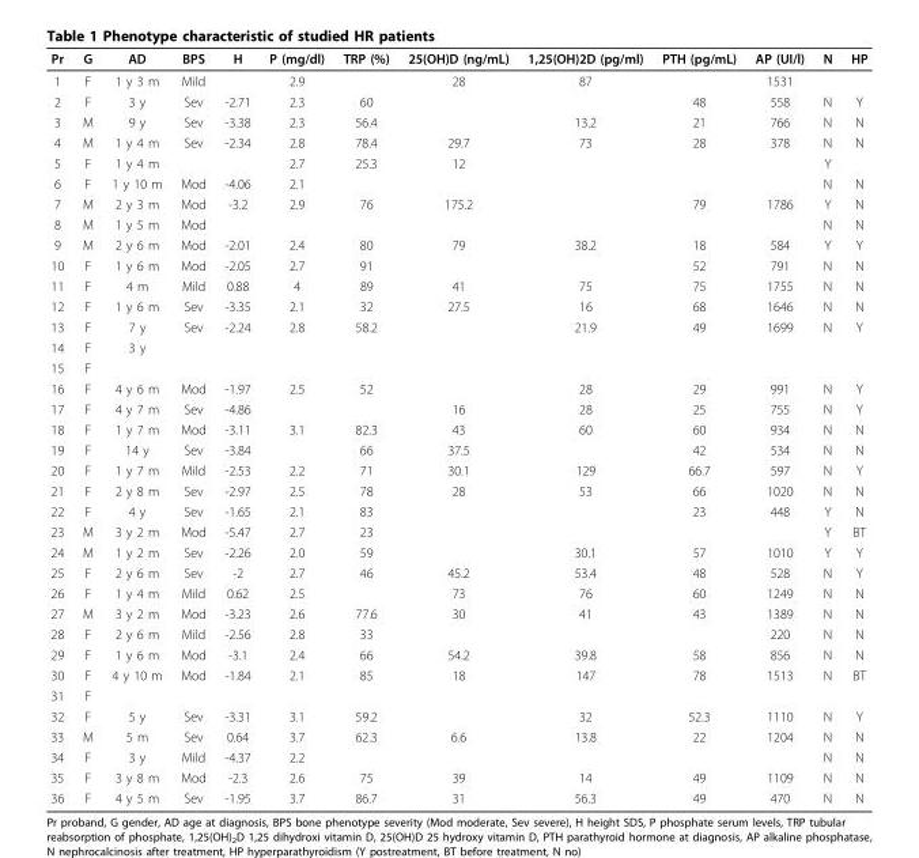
<table><thead><tr><td>Pr</td><td>G</td><td>AD</td><td>BPS</td><td>H</td><td>P (mg/dl)</td><td>TRP (%)</td><td>25(OH)D (ng/mL)</td><td>1,25(OH)2D (pg/ml)</td><td>PTH (pg/mL)</td><td>AP (UI/l)</td><td>N</td><td>HP</td></tr></thead><tbody><tr><td>1</td><td>F</td><td>1 y 3 m</td><td>Mild</td><td></td><td>2.9</td><td></td><td>28</td><td>87</td><td></td><td>1531</td><td></td><td></td></tr><tr><td>2</td><td>F</td><td>3 y</td><td>Sev</td><td>-2.71</td><td>2.3</td><td>60</td><td></td><td></td><td>48</td><td>558</td><td>N</td><td>Y</td></tr><tr><td>3</td><td>M</td><td>9 y</td><td>Sev</td><td>-3.38</td><td>2.3</td><td>56.4</td><td></td><td>13.2</td><td>21</td><td>766</td><td>N</td><td>N</td></tr><tr><td>4</td><td>M</td><td>1 y 4 m</td><td>Sev</td><td>-2.34</td><td>2.8</td><td>78.4</td><td>29.7</td><td>73</td><td>28</td><td>378</td><td>N</td><td>N</td></tr><tr><td>5</td><td>F</td><td>1 y 4 m</td><td></td><td></td><td>2.7</td><td>25.3</td><td>12</td><td></td><td></td><td></td><td>Y</td><td></td></tr><tr><td>6</td><td>F</td><td>1 y 10 m</td><td>Mod</td><td>-4.06</td><td>2.1</td><td></td><td></td><td></td><td></td><td></td><td>N</td><td>N</td></tr><tr><td>7</td><td>M</td><td>2 y 3 m</td><td>Mod</td><td>-3.2</td><td>2.9</td><td>76</td><td>175.2</td><td></td><td>79</td><td>1786</td><td>Y</td><td>N</td></tr><tr><td>8</td><td>M</td><td>1 y 5 m</td><td>Mod</td><td></td><td></td><td></td><td></td><td></td><td></td><td></td><td>N</td><td>N</td></tr><tr><td>9</td><td>M</td><td>2 y 6 m</td><td>Mod</td><td>-2.01</td><td>2.4</td><td>80</td><td>79</td><td>38.2</td><td>18</td><td>584</td><td>Y</td><td>Y</td></tr><tr><td>10</td><td>F</td><td>1 y 6 m</td><td>Mod</td><td>-2.05</td><td>2.7</td><td>91</td><td></td><td></td><td>52</td><td>791</td><td>N</td><td>N</td></tr><tr><td>11</td><td>F</td><td>4 m</td><td>Mild</td><td>0.88</td><td>4</td><td>89</td><td>41</td><td>75</td><td>75</td><td>1755</td><td>N</td><td>N</td></tr><tr><td>12</td><td>F</td><td>1 y 6 m</td><td>Sev</td><td>-3.35</td><td>2.1</td><td>32</td><td>27.5</td><td>16</td><td>68</td><td>1646</td><td>N</td><td>N</td></tr><tr><td>13</td><td>F</td><td>7 y</td><td>Sev</td><td>-2.24</td><td>2.8</td><td>58.2</td><td></td><td>21.9</td><td>49</td><td>1699</td><td>N</td><td>Y</td></tr><tr><td>14</td><td>F</td><td>3 y</td><td></td><td></td><td></td><td></td><td></td><td></td><td></td><td></td><td></td><td></td></tr><tr><td>15</td><td>F</td><td></td><td></td><td></td><td></td><td></td><td></td><td></td><td></td><td></td><td></td><td></td></tr><tr><td>16</td><td>F</td><td>4 y 6 m</td><td>Mod</td><td>-1.97</td><td>2.5</td><td>52</td><td></td><td>28</td><td>29</td><td>991</td><td>N</td><td>Y</td></tr><tr><td>17</td><td>F</td><td>4 y 7 m</td><td>Sev</td><td>-4.86</td><td></td><td></td><td>16</td><td>28</td><td>25</td><td>755</td><td>N</td><td>Y</td></tr><tr><td>18</td><td>F</td><td>1 y 7 m</td><td>Mod</td><td>-3.11</td><td>3.1</td><td>82.3</td><td>43</td><td>60</td><td>60</td><td>934</td><td>N</td><td>N</td></tr><tr><td>19</td><td>F</td><td>14 y</td><td>Sev</td><td>-3.84</td><td></td><td>66</td><td>37.5</td><td></td><td>42</td><td>534</td><td>N</td><td>N</td></tr><tr><td>20</td><td>F</td><td>1 y 7 m</td><td>Mild</td><td>-2.53</td><td>2.2</td><td>71</td><td>30.1</td><td>129</td><td>66.7</td><td>597</td><td>N</td><td>Y</td></tr><tr><td>21</td><td>F</td><td>2 y 8 m</td><td>Sev</td><td>-2.97</td><td>2.5</td><td>78</td><td>28</td><td>53</td><td>66</td><td>1020</td><td>N</td><td>N</td></tr><tr><td>22</td><td>F</td><td>4 y</td><td>Sev</td><td>-1.65</td><td>2.1</td><td>83</td><td></td><td></td><td>23</td><td>448</td><td>Y</td><td>N</td></tr><tr><td>23</td><td>M</td><td>3 y 2 m</td><td>Mod</td><td>-5.47</td><td>2.7</td><td>23</td><td></td><td></td><td></td><td></td><td>Y</td><td>BT</td></tr><tr><td>24</td><td>M</td><td>1 y 2 m</td><td>Sev</td><td>-2.26</td><td>2.0</td><td>59</td><td></td><td>30.1</td><td>57</td><td>1010</td><td>Y</td><td>Y</td></tr><tr><td>25</td><td>F</td><td>2 y 6 m</td><td>Sev</td><td>-2</td><td>2.7</td><td>46</td><td>45.2</td><td>53.4</td><td>48</td><td>528</td><td>N</td><td>Y</td></tr><tr><td>26</td><td>F</td><td>1 y 4 m</td><td>Mild</td><td>0.62</td><td>2.5</td><td></td><td>73</td><td>76</td><td>60</td><td>1249</td><td>N</td><td>N</td></tr><tr><td>27</td><td>M</td><td>3 y 2 m</td><td>Mod</td><td>-3.23</td><td>2.6</td><td>77.6</td><td>30</td><td>41</td><td>43</td><td>1389</td><td>N</td><td>N</td></tr><tr><td>28</td><td>F</td><td>2 y 6 m</td><td>Mild</td><td>-2.56</td><td>2.8</td><td>33</td><td></td><td></td><td></td><td>220</td><td>N</td><td>N</td></tr><tr><td>29</td><td>F</td><td>1 y 6 m</td><td>Mod</td><td>-3.1</td><td>2.4</td><td>66</td><td>54.2</td><td>39.8</td><td>58</td><td>856</td><td>N</td><td>N</td></tr><tr><td>30</td><td>F</td><td>4 y 10 m</td><td>Mod</td><td>-1.84</td><td>2.1</td><td>85</td><td>18</td><td>147</td><td>78</td><td>1513</td><td>N</td><td>BT</td></tr><tr><td>31</td><td>F</td><td></td><td></td><td></td><td></td><td></td><td></td><td></td><td></td><td></td><td></td><td></td></tr><tr><td>32</td><td>F</td><td>5 y</td><td>Sev</td><td>-3.31</td><td>3.1</td><td>59.2</td><td></td><td>32</td><td>52.3</td><td>1110</td><td>N</td><td>Y</td></tr><tr><td>33</td><td>M</td><td>5 m</td><td>Sev</td><td>0.64</td><td>3.7</td><td>62.3</td><td>6.6</td><td>13.8</td><td>22</td><td>1204</td><td>N</td><td>N</td></tr><tr><td>34</td><td>F</td><td>3 y</td><td>Mild</td><td>-4.37</td><td>2.2</td><td></td><td></td><td></td><td></td><td></td><td>N</td><td>N</td></tr><tr><td>35</td><td>F</td><td>3 y 8 m</td><td>Mod</td><td>-2.3</td><td>2.6</td><td>75</td><td>39</td><td>14</td><td>49</td><td>1109</td><td>N</td><td>N</td></tr><tr><td>36</td><td>F</td><td>4 y 5 m</td><td>Sev</td><td>-1.95</td><td>3.7</td><td>86.7</td><td>31</td><td>56.3</td><td>49</td><td>470</td><td>N</td><td>N</td></tr></tbody></table>